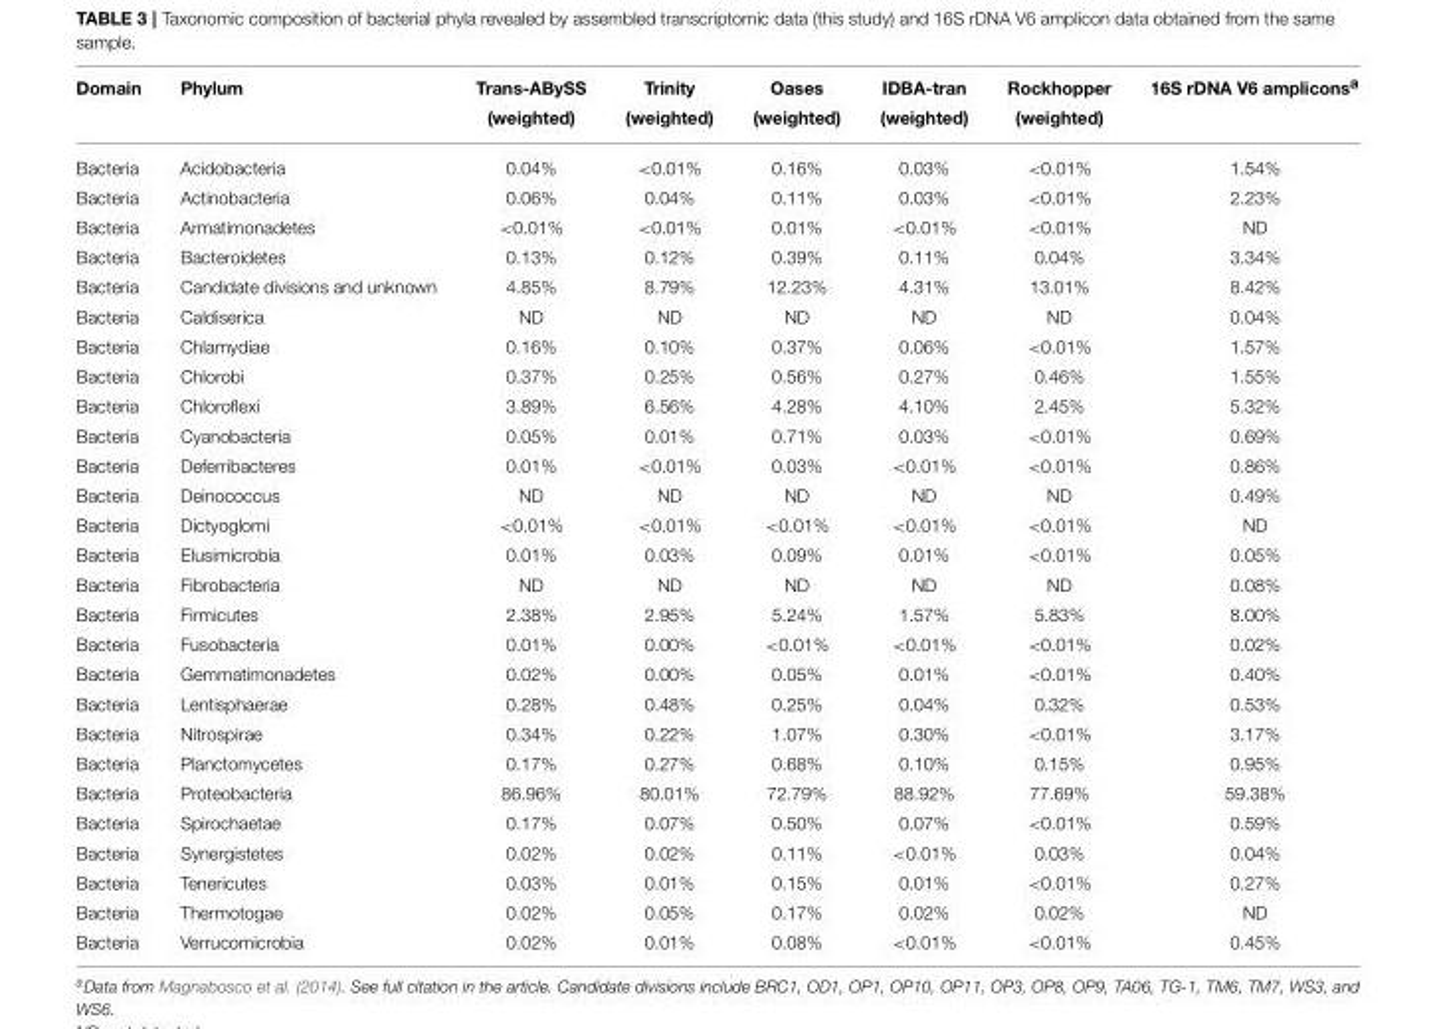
<table><thead><tr><td rowspan="2">Domain</td><td rowspan="2">Phylum</td><td rowspan="2">Trans-ABySS (weighted)</td><td rowspan="2">Trinity (weighted)</td><td rowspan="2">Oases (weighted)</td><td rowspan="2">IDBA-tran (weighted)</td><td rowspan="2">Rockhopper (weighted)</td><td rowspan="2">16S rDNA V6 amplicons<sup>a</sup></td></tr><tr></tr></thead><tbody><tr><td>Bacteria</td><td>Acidobacteria</td><td>0.04%</td><td>&lt;0.01%</td><td>0.16%</td><td>0.03%</td><td>&lt;0.01%</td><td>1.54%</td></tr><tr><td>Bacteria</td><td>Actinobacteria</td><td>0.06%</td><td>0.04%</td><td>0.11%</td><td>0.03%</td><td>&lt;0.01%</td><td>2.23%</td></tr><tr><td>Bacteria</td><td>Armatimonadetes</td><td>&lt;0.01%</td><td>&lt;0.01%</td><td>0.01%</td><td>&lt;0.01%</td><td>&lt;0.01%</td><td>ND</td></tr><tr><td>Bacteria</td><td>Bacteroidetes</td><td>0.13%</td><td>0.12%</td><td>0.39%</td><td>0.11%</td><td>0.04%</td><td>3.34%</td></tr><tr><td>Bacteria</td><td>Candidate divisions and unknown</td><td>4.85%</td><td>8.79%</td><td>12.23%</td><td>4.31%</td><td>13.01%</td><td>8.42%</td></tr><tr><td>Bacteria</td><td>Caldiserica</td><td>ND</td><td>ND</td><td>ND</td><td>ND</td><td>ND</td><td>0.04%</td></tr><tr><td>Bacteria</td><td>Chlamydiae</td><td>0.16%</td><td>0.10%</td><td>0.37%</td><td>0.06%</td><td>&lt;0.01%</td><td>1.57%</td></tr><tr><td>Bacteria</td><td>Chlorobi</td><td>0.37%</td><td>0.25%</td><td>0.56%</td><td>0.27%</td><td>0.46%</td><td>1.55%</td></tr><tr><td>Bacteria</td><td>Chloroflexi</td><td>3.89%</td><td>6.56%</td><td>4.28%</td><td>4.10%</td><td>2.45%</td><td>5.32%</td></tr><tr><td>Bacteria</td><td>Cyanobacteria</td><td>0.05%</td><td>0.01%</td><td>0.71%</td><td>0.03%</td><td>&lt;0.01%</td><td>0.69%</td></tr><tr><td>Bacteria</td><td>Deferribacteres</td><td>0.01%</td><td>&lt;0.01%</td><td>0.03%</td><td>&lt;0.01%</td><td>&lt;0.01%</td><td>0.86%</td></tr><tr><td>Bacteria</td><td>Deinococcus</td><td>ND</td><td>ND</td><td>ND</td><td>ND</td><td>ND</td><td>0.49%</td></tr><tr><td>Bacteria</td><td>Dictyoglomi</td><td>&lt;0.01%</td><td>&lt;0.01%</td><td>&lt;0.01%</td><td>&lt;0.01%</td><td>&lt;0.01%</td><td>ND</td></tr><tr><td>Bacteria</td><td>Elusimicrobia</td><td>0.01%</td><td>0.03%</td><td>0.09%</td><td>0.01%</td><td>&lt;0.01%</td><td>0.05%</td></tr><tr><td>Bacteria</td><td>Fibrobacteria</td><td>ND</td><td>ND</td><td>ND</td><td>ND</td><td>ND</td><td>0.08%</td></tr><tr><td>Bacteria</td><td>Firmicutes</td><td>2.38%</td><td>2.95%</td><td>5.24%</td><td>1.57%</td><td>5.83%</td><td>8.00%</td></tr><tr><td>Bacteria</td><td>Fusobacteria</td><td>0.01%</td><td>0.00%</td><td>&lt;0.01%</td><td>&lt;0.01%</td><td>&lt;0.01%</td><td>0.02%</td></tr><tr><td>Bacteria</td><td>Gemmatimonadetes</td><td>0.02%</td><td>0.00%</td><td>0.05%</td><td>0.01%</td><td>&lt;0.01%</td><td>0.40%</td></tr><tr><td>Bacteria</td><td>Lentisphaerae</td><td>0.28%</td><td>0.48%</td><td>0.25%</td><td>0.04%</td><td>0.32%</td><td>0.53%</td></tr><tr><td>Bacteria</td><td>Nitrospirae</td><td>0.34%</td><td>0.22%</td><td>1.07%</td><td>0.30%</td><td>&lt;0.01%</td><td>3.17%</td></tr><tr><td>Bacteria</td><td>Planctomycetes</td><td>0.17%</td><td>0.27%</td><td>0.68%</td><td>0.10%</td><td>0.15%</td><td>0.95%</td></tr><tr><td>Bacteria</td><td>Proteobacteria</td><td>86.96%</td><td>80.01%</td><td>72.79%</td><td>88.92%</td><td>77.69%</td><td>59.38%</td></tr><tr><td>Bacteria</td><td>Spirochaetae</td><td>0.17%</td><td>0.07%</td><td>0.50%</td><td>0.07%</td><td>&lt;0.01%</td><td>0.59%</td></tr><tr><td>Bacteria</td><td>Synergistetes</td><td>0.02%</td><td>0.02%</td><td>0.11%</td><td>&lt;0.01%</td><td>0.03%</td><td>0.04%</td></tr><tr><td>Bacteria</td><td>Tenericutes</td><td>0.03%</td><td>0.01%</td><td>0.15%</td><td>0.01%</td><td>&lt;0.01%</td><td>0.27%</td></tr><tr><td>Bacteria</td><td>Thermotogae</td><td>0.02%</td><td>0.05%</td><td>0.17%</td><td>0.02%</td><td>0.02%</td><td>ND</td></tr><tr><td>Bacteria</td><td>Verrucomicrobia</td><td>0.02%</td><td>0.01%</td><td>0.08%</td><td>&lt;0.01%</td><td>&lt;0.01%</td><td>0.45%</td></tr></tbody></table>